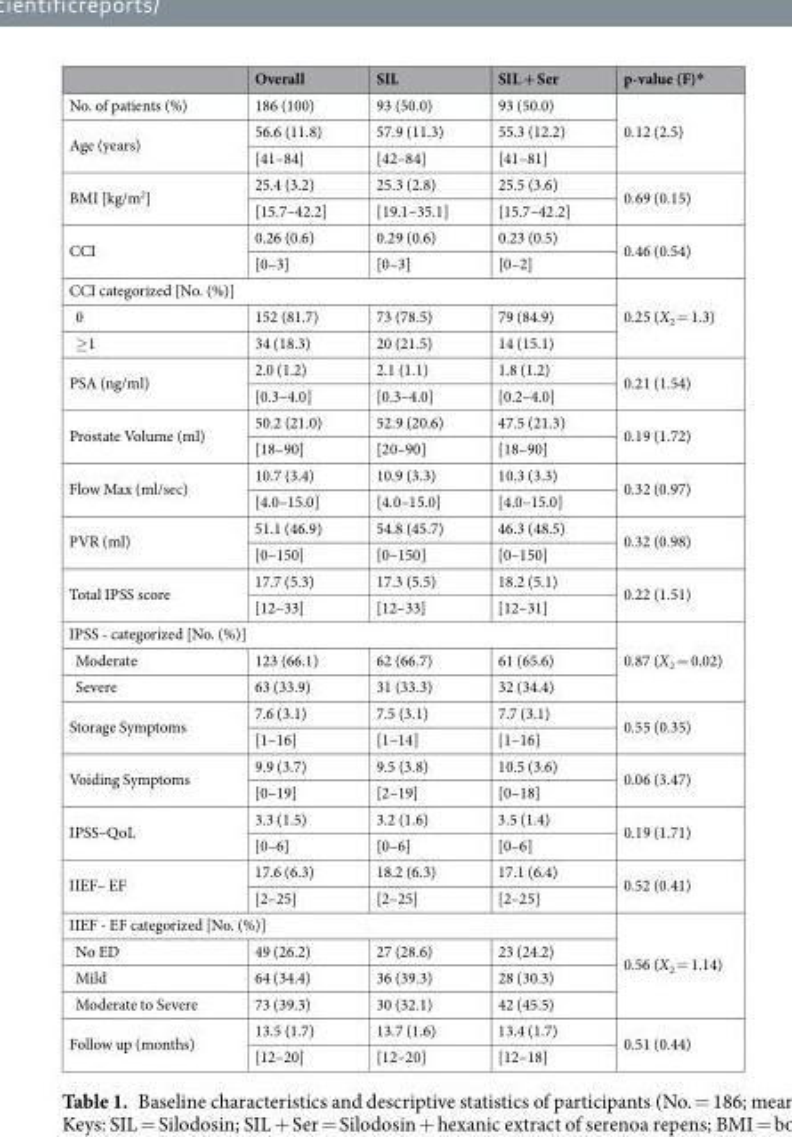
<table><thead><tr><td></td><td>Overall</td><td>SIL</td><td>SIL + Ser</td><td>p-value (F)*</td></tr></thead><tbody><tr><td>No. of patients (%)</td><td>186 (100)</td><td>93 (50.0)</td><td>93 (50.0)</td><td rowspan="3">0.12 (2.5)</td></tr><tr><td rowspan="2">Age (years)</td><td>56.6 (11.8)</td><td>57.9 (11.3)</td><td>55.3 (12.2)</td></tr><tr><td>[41–84]</td><td>[42–84]</td><td>[41–81]</td></tr><tr><td rowspan="2">BMI [kg/m<sup>2</sup>]</td><td>25.4 (3.2)</td><td>25.3 (2.8)</td><td>25.5 (3.6)</td><td rowspan="2">0.69 (0.15)</td></tr><tr><td>[15.7–42.2]</td><td>[19.1–35.1]</td><td>[15.7–42.2]</td></tr><tr><td rowspan="2">CCI</td><td>0.26 (0.6)</td><td>0.29 (0.6)</td><td>0.23 (0.5)</td><td rowspan="2">0.46 (0.54)</td></tr><tr><td>[0–3]</td><td>[0–3]</td><td>[0–2]</td></tr><tr><td colspan="4">CCI categorized [No. (%)]</td><td rowspan="3">0.25 (X<sub>2</sub> = 1.3)</td></tr><tr><td>0</td><td>152 (81.7)</td><td>73 (78.5)</td><td>79 (84.9)</td></tr><tr><td>≥1</td><td>34 (18.3)</td><td>20 (21.5)</td><td>14 (15.1)</td></tr><tr><td rowspan="2">PSA (ng/ml)</td><td>2.0 (1.2)</td><td>2.1 (1.1)</td><td>1.8 (1.2)</td><td rowspan="2">0.21 (1.54)</td></tr><tr><td>[0.3–4.0]</td><td>[0.3–4.0]</td><td>[0.2–4.0]</td></tr><tr><td rowspan="2">Prostate Volume (ml)</td><td>50.2 (21.0)</td><td>52.9 (20.6)</td><td>47.5 (21.3)</td><td rowspan="2">0.19 (1.72)</td></tr><tr><td>[18–90]</td><td>[20–90]</td><td>[18–90]</td></tr><tr><td rowspan="2">Flow Max (ml/sec)</td><td>10.7 (3.4)</td><td>10.9 (3.3)</td><td>10.3 (3.3)</td><td rowspan="2">0.32 (0.97)</td></tr><tr><td>[4.0–15.0]</td><td>[4.0–15.0]</td><td>[4.0–15.0]</td></tr><tr><td rowspan="2">PVR (ml)</td><td>51.1 (46.9)</td><td>54.8 (45.7)</td><td>46.3 (48.5)</td><td rowspan="2">0.32 (0.98)</td></tr><tr><td>[0–150]</td><td>[0–150]</td><td>[0–150]</td></tr><tr><td rowspan="2">Total IPSS score</td><td>17.7 (5.3)</td><td>17.3 (5.5)</td><td>18.2 (5.1)</td><td rowspan="2">0.22 (1.51)</td></tr><tr><td>[12–33]</td><td>[12–33]</td><td>[12–31]</td></tr><tr><td colspan="4">IPSS - categorized [No. (%)]</td><td rowspan="3">0.87 (X<sub>2</sub> = 0.02)</td></tr><tr><td>Moderate</td><td>123 (66.1)</td><td>62 (66.7)</td><td>61 (65.6)</td></tr><tr><td>Severe</td><td>63 (33.9)</td><td>31 (33.3)</td><td>32 (34.4)</td></tr><tr><td rowspan="2">Storage Symptoms</td><td>7.6 (3.1)</td><td>7.5 (3.1)</td><td>7.7 (3.1)</td><td rowspan="2">0.55 (0.35)</td></tr><tr><td>[1–16]</td><td>[1–14]</td><td>[1–16]</td></tr><tr><td rowspan="2">Voiding Symptoms</td><td>9.9 (3.7)</td><td>9.5 (3.8)</td><td>10.5 (3.6)</td><td rowspan="2">0.06 (3.47)</td></tr><tr><td>[0–19]</td><td>[2–19]</td><td>[0–18]</td></tr><tr><td rowspan="2">IPSS–QoL</td><td>3.3 (1.5)</td><td>3.2 (1.6)</td><td>3.5 (1.4)</td><td rowspan="2">0.19 (1.71)</td></tr><tr><td>[0–6]</td><td>[0–6]</td><td>[0–6]</td></tr><tr><td rowspan="2">IIEF– EF</td><td>17.6 (6.3)</td><td>18.2 (6.3)</td><td>17.1 (6.4)</td><td rowspan="2">0.52 (0.41)</td></tr><tr><td>[2–25]</td><td>[2–25]</td><td>[2–25]</td></tr><tr><td colspan="4">IIEF - EF categorized [No. (%)]</td><td rowspan="4">0.56 (X<sub>2</sub> = 1.14)</td></tr><tr><td>No ED</td><td>49 (26.2)</td><td>27 (28.6)</td><td>23 (24.2)</td></tr><tr><td>Mild</td><td>64 (34.4)</td><td>36 (39.3)</td><td>28 (30.3)</td></tr><tr><td>Moderate to Severe</td><td>73 (39.3)</td><td>30 (32.1)</td><td>42 (45.5)</td></tr><tr><td rowspan="2">Follow up (months)</td><td>13.5 (1.7)</td><td>13.7 (1.6)</td><td>13.4 (1.7)</td><td rowspan="2">0.51 (0.44)</td></tr><tr><td>[12–20]</td><td>[12–20]</td><td>[12–18]</td></tr></tbody></table>